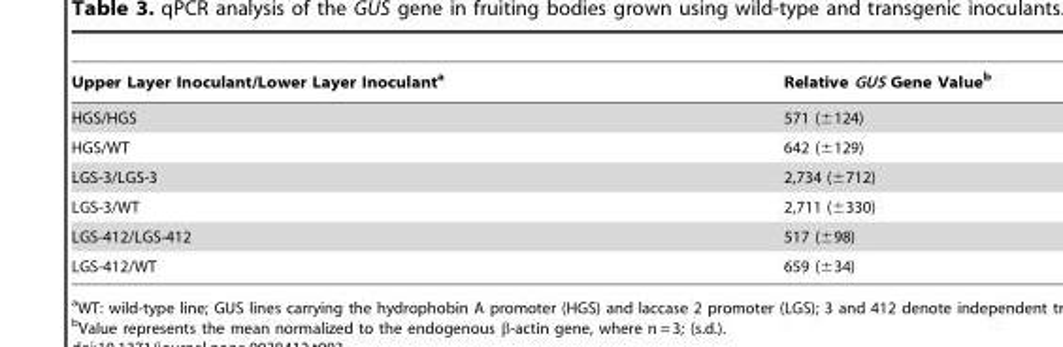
<table><thead><tr><td>Upper Layer Inoculant/Lower Layer Inoculant<sup>a</sup></td><td>Relative GUS Gene Value<sup>b</sup></td></tr></thead><tbody><tr><td>HGS/HGS</td><td>571 (±124)</td></tr><tr><td>HGS/WT</td><td>642 (±129)</td></tr><tr><td>LGS-3/LGS-3</td><td>2,734 (±712)</td></tr><tr><td>LGS-3/WT</td><td>2,711 (±330)</td></tr><tr><td>LGS-412/LGS-412</td><td>517 (±98)</td></tr><tr><td>LGS-412/WT</td><td>659 (±34)</td></tr></tbody></table>